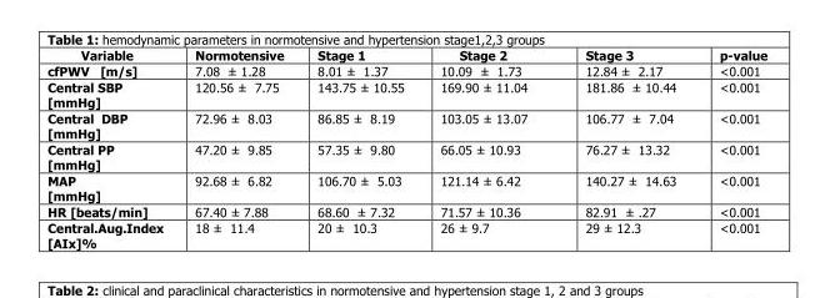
<table><thead><tr><td>Variable</td><td>Normotensive</td><td>Stage 1</td><td>Stage 2</td><td>Stage 3</td><td>p-value</td></tr></thead><tbody><tr><td>cfPWV [m/s]</td><td>7.08 ± 1.28</td><td>8.01 ± 1.37</td><td>10.09 ± 1.73</td><td>12.84 ± 2.17</td><td>&lt;0.001</td></tr><tr><td>Central SBP [mmHg]</td><td>120.56 ± 7.75</td><td>143.75 ± 10.55</td><td>169.90 ± 11.04</td><td>181.86 ± 10.44</td><td>&lt;0.001</td></tr><tr><td>Central DBP [mmHg]</td><td>72.96 ± 8.03</td><td>86.85 ± 8.19</td><td>103.05 ± 13.07</td><td>106.77 ± 7.04</td><td>&lt;0.001</td></tr><tr><td>Central PP [mmHg]</td><td>47.20 ± 9.85</td><td>57.35 ± 9.80</td><td>66.05 ± 10.93</td><td>76.27 ± 13.32</td><td>&lt;0.001</td></tr><tr><td>MAP [mmHg]</td><td>92.68 ± 6.82</td><td>106.70 ± 5.03</td><td>121.14 ± 6.42</td><td>140.27 ± 14.63</td><td>&lt;0.001</td></tr><tr><td>HR [beats/min]</td><td>67.40 ± 7.88</td><td>68.60 ± 7.32</td><td>71.57 ± 10.36</td><td>82.91 ± .27</td><td>&lt;0.001</td></tr><tr><td>Central.Aug.Index [AIx]%</td><td>18 ± 11.4</td><td>20 ± 10.3</td><td>26 ± 9.7</td><td>29 ± 12.3</td><td>&lt;0.001</td></tr></tbody></table>